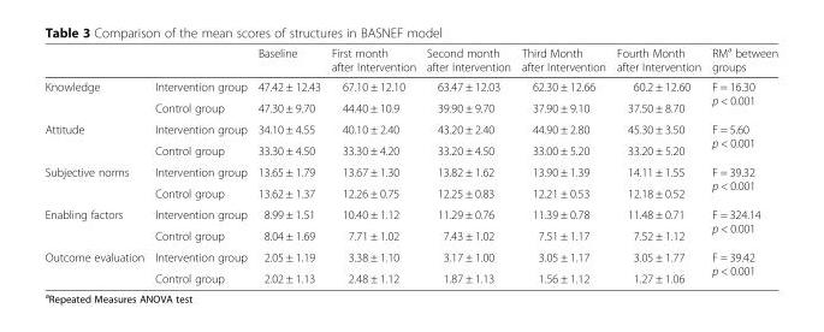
<table><thead><tr><td></td><td></td><td>Baseline</td><td>First month after Intervention</td><td>Second month after Intervention</td><td>Third Month after Intervention</td><td>Fourth Month after Intervention</td><td>RM<sup>a</sup> between groups</td></tr></thead><tbody><tr><td rowspan="2">Knowledge</td><td>Intervention group</td><td>47.42 ± 12.43</td><td>67.10 ± 12.10</td><td>63.47 ± 12.03</td><td>62.30 ± 12.66</td><td>60.2 ± 12.60</td><td rowspan="2">F = 16.30 p &lt; 0.001</td></tr><tr><td>Control group</td><td>47.30 ± 9.70</td><td>44.40 ± 10.9</td><td>39.90 ± 9.70</td><td>37.90 ± 9.10</td><td>37.50 ± 8.70</td></tr><tr><td rowspan="2">Attitude</td><td>Intervention group</td><td>34.10 ± 4.55</td><td>40.10 ± 2.40</td><td>43.20 ± 2.40</td><td>44.90 ± 2.80</td><td>45.30 ± 3.50</td><td rowspan="2">F = 5.60 p &lt; 0.001</td></tr><tr><td>Control group</td><td>33.30 ± 4.50</td><td>33.30 ± 4.20</td><td>33.20 ± 4.50</td><td>33.00 ± 5.20</td><td>33.20 ± 5.20</td></tr><tr><td rowspan="2">Subjective norms</td><td>Intervention group</td><td>13.65 ± 1.79</td><td>13.67 ± 1.30</td><td>13.82 ± 1.62</td><td>13.90 ± 1.39</td><td>14.11 ± 1.55</td><td rowspan="2">F = 39.32 p &lt; 0.001</td></tr><tr><td>Control group</td><td>13.62 ± 1.37</td><td>12.26 ± 0.75</td><td>12.25 ± 0.83</td><td>12.21 ± 0.53</td><td>12.18 ± 0.52</td></tr><tr><td rowspan="2">Enabling factors</td><td>Intervention group</td><td>8.99 ± 1.51</td><td>10.40 ± 1.12</td><td>11.29 ± 0.76</td><td>11.39 ± 0.78</td><td>11.48 ± 0.71</td><td rowspan="2">F = 324.14 p &lt; 0.001</td></tr><tr><td>Control group</td><td>8.04 ± 1.69</td><td>7.71 ± 1.02</td><td>7.43 ± 1.02</td><td>7.51 ± 1.17</td><td>7.52 ± 1.12</td></tr><tr><td rowspan="2">Outcome evaluation</td><td>Intervention group</td><td>2.05 ± 1.19</td><td>3.38 ± 1.10</td><td>3.17 ± 1.00</td><td>3.05 ± 1.17</td><td>3.05 ± 1.77</td><td rowspan="2">F = 39.42 p &lt; 0.001</td></tr><tr><td>Control group</td><td>2.02 ± 1.13</td><td>2.48 ± 1.12</td><td>1.87 ± 1.13</td><td>1.56 ± 1.12</td><td>1.27 ± 1.06</td></tr></tbody></table>